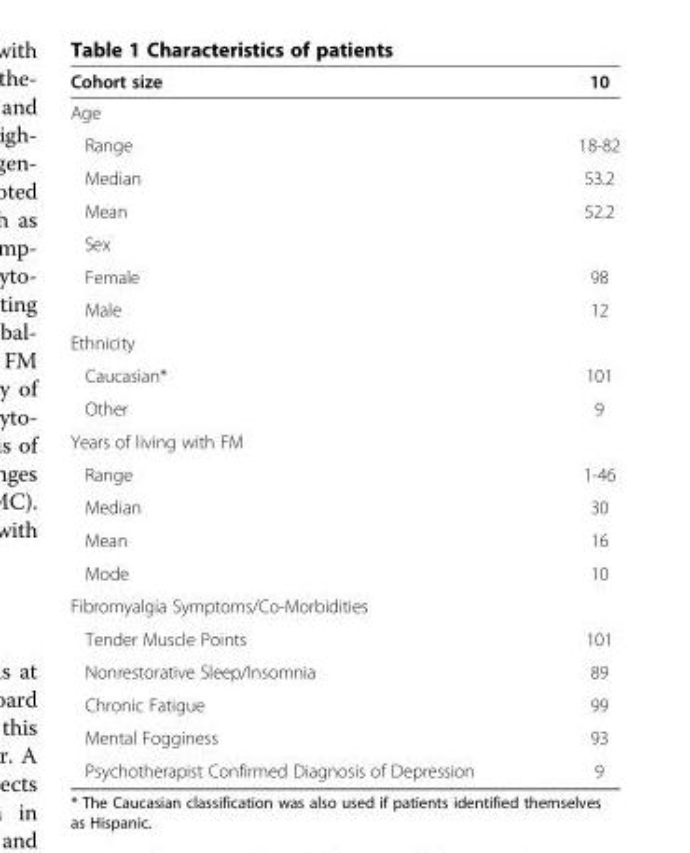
<table><thead><tr><td>Cohort size</td><td>10</td></tr></thead><tbody><tr><td colspan="2">Age</td></tr><tr><td>Range</td><td>18-82</td></tr><tr><td>Median</td><td>53.2</td></tr><tr><td>Mean</td><td>52.2</td></tr><tr><td colspan="2">Sex</td></tr><tr><td>Female</td><td>98</td></tr><tr><td>Male</td><td>12</td></tr><tr><td colspan="2">Ethnicity</td></tr><tr><td>Caucasian*</td><td>101</td></tr><tr><td>Other</td><td>9</td></tr><tr><td colspan="2">Years of living with FM</td></tr><tr><td>Range</td><td>1-46</td></tr><tr><td>Median</td><td>30</td></tr><tr><td>Mean</td><td>16</td></tr><tr><td>Mode</td><td>10</td></tr><tr><td colspan="2">Fibromyalgia Symptoms/Co-Morbidities</td></tr><tr><td>Tender Muscle Points</td><td>101</td></tr><tr><td>Nonrestorative Sleep/Insomnia</td><td>89</td></tr><tr><td>Chronic Fatigue</td><td>99</td></tr><tr><td>Mental Fogginess</td><td>93</td></tr><tr><td>Psychotherapist Confirmed Diagnosis of Depression</td><td>9</td></tr></tbody></table>